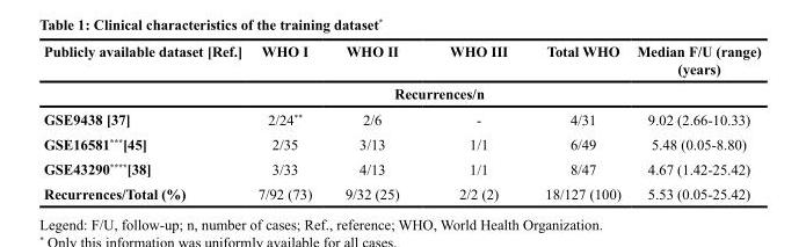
<table><thead><tr><td>Publicly available dataset [Ref.]</td><td>WHO I</td><td>WHO II</td><td>WHO III</td><td>Total WHO</td><td>Median F/U (range) (years)</td></tr></thead><tbody><tr><td colspan="6">Recurrences/n</td></tr><tr><td>GSE9438 [37]</td><td>2/24**</td><td>2/6</td><td>-</td><td>4/31</td><td>9.02 (2.66-10.33)</td></tr><tr><td>GSE16581***[45]</td><td>2/35</td><td>3/13</td><td>1/1</td><td>6/49</td><td>5.48 (0.05-8.80)</td></tr><tr><td>GSE43290****[38]</td><td>3/33</td><td>4/13</td><td>1/1</td><td>8/47</td><td>4.67 (1.42-25.42)</td></tr><tr><td>Recurrences/Total (%)</td><td>7/92 (73)</td><td>9/32 (25)</td><td>2/2 (2)</td><td>18/127 (100)</td><td>5.53 (0.05-25.42)</td></tr></tbody></table>